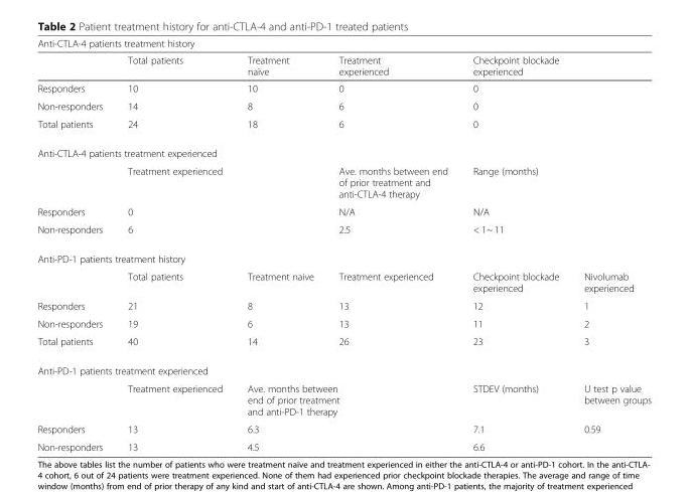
<table><thead><tr><td colspan="6">Anti-CTLA-4 patients treatment history</td></tr><tr><td></td><td>Total patients</td><td>Treatment naïve</td><td>Treatment experienced</td><td colspan="2">Checkpoint blockade experienced</td></tr></thead><tbody><tr><td>Responders</td><td>10</td><td>10</td><td>0</td><td colspan="2">0</td></tr><tr><td>Non-responders</td><td>14</td><td>8</td><td>6</td><td colspan="2">0</td></tr><tr><td>Total patients</td><td>24</td><td>18</td><td>6</td><td colspan="2">0</td></tr><tr><td colspan="6">Anti-CTLA-4 patients treatment experienced</td></tr><tr><td></td><td colspan="2">Treatment experienced</td><td>Ave. months between end of prior treatment and anti-CTLA-4 therapy</td><td colspan="2">Range (months)</td></tr><tr><td>Responders</td><td colspan="2">0</td><td>N/A</td><td colspan="2">N/A</td></tr><tr><td>Non-responders</td><td colspan="2">6</td><td>2.5</td><td colspan="2">&lt; 1~ 11</td></tr><tr><td colspan="6">Anti-PD-1 patients treatment history</td></tr><tr><td></td><td>Total patients</td><td>Treatment naive</td><td>Treatment experienced</td><td>Checkpoint blockade experienced</td><td>Nivolumab experienced</td></tr><tr><td>Responders</td><td>21</td><td>8</td><td>13</td><td>12</td><td>1</td></tr><tr><td>Non-responders</td><td>19</td><td>6</td><td>13</td><td>11</td><td>2</td></tr><tr><td>Total patients</td><td>40</td><td>14</td><td>26</td><td>23</td><td>3</td></tr><tr><td colspan="6">Anti-PD-1 patients treatment experienced</td></tr><tr><td></td><td>Treatment experienced</td><td colspan="2">Ave. months between end of prior treatment and anti-PD-1 therapy</td><td>STDEV (months)</td><td>U test p value between groups</td></tr><tr><td>Responders</td><td>13</td><td colspan="2">6.3</td><td>7.1</td><td rowspan="2">0.59</td></tr><tr><td>Non-responders</td><td>13</td><td colspan="2">4.5</td><td>6.6</td></tr></tbody></table>